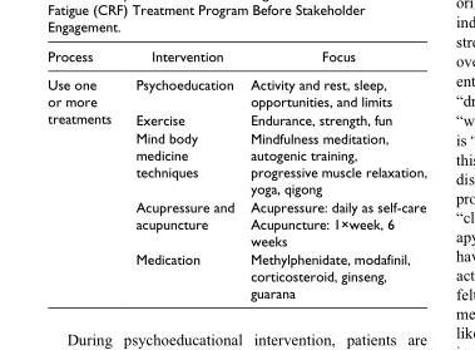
<table><thead><tr><td>Process</td><td>Intervention</td><td>Focus</td></tr></thead><tbody><tr><td rowspan="5">Use one or more treatments</td><td>Psychoeducation</td><td>Activity and rest, sleep, opportunities, and limits</td></tr><tr><td>Exercise</td><td>Endurance, strength, fun</td></tr><tr><td>Mind body medicine techniques</td><td>Mindfulness meditation, autogenic training, progressive muscle relaxation, yoga, qigong</td></tr><tr><td>Acupressure and acupuncture</td><td>Acupressure: daily as self-care Acupuncture: 1×week, 6 weeks</td></tr><tr><td>Medication</td><td>Methylphenidate, modafinil, corticosteroid, ginseng, guarana</td></tr></tbody></table>